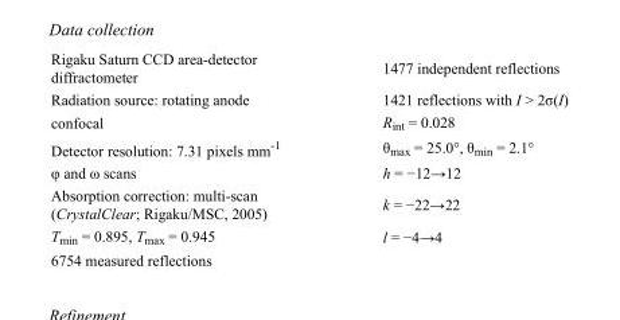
<table><tbody><tr><td>Rigaku Saturn CCD area-detector diffractometer</td><td>1477 independent reflections</td></tr><tr><td>Radiation source: rotating anode</td><td>1421 reflections with I &gt; 2σ(I)</td></tr><tr><td>confocal</td><td>R<sub>int</sub> = 0.028</td></tr><tr><td>Detector resolution: 7.31 pixels mm<sup>-1</sup></td><td>θ<sub>max</sub> = 25.0°, θ<sub>min</sub> = 2.1°</td></tr><tr><td>φ and ω scans</td><td>h = −12→12</td></tr><tr><td>Absorption correction: multi-scan (CrystalClear; Rigaku/MSC, 2005)</td><td>k = −22→22</td></tr><tr><td>T<sub>min</sub> = 0.895, T<sub>max</sub> = 0.945</td><td>l = −4→4</td></tr><tr><td>6754 measured reflections</td><td></td></tr></tbody></table>